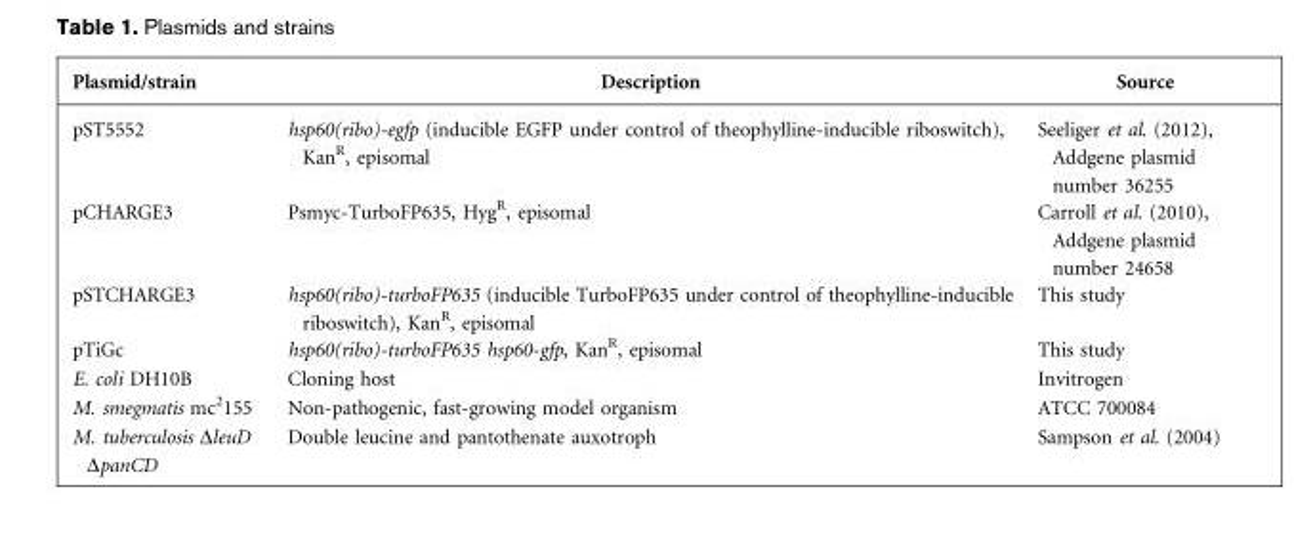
<table><thead><tr><td>Plasmid/strain</td><td>Description</td><td>Source</td></tr></thead><tbody><tr><td>pST5552</td><td>hsp60(ribo)-egfp (inducible EGFP under control of theophylline-inducible riboswitch), Kan<sup>R</sup>, episomal</td><td>Seeliger et al. (2012), Addgene plasmid number 36255</td></tr><tr><td>pCHARGE3</td><td>Psmyc-TurboFP635, Hyg<sup>R</sup>, episomal</td><td>Carroll et al. (2010), Addgene plasmid number 24658</td></tr><tr><td>pSTCHARGE3</td><td>hsp60(ribo)-turboFP635 (inducible TurboFP635 under control of theophylline-inducible riboswitch), Kan<sup>R</sup>, episomal</td><td>This study</td></tr><tr><td>pTiGc</td><td>hsp60(ribo)-turboFP635 hsp60-gfp, Kan<sup>R</sup>, episomal</td><td>This study</td></tr><tr><td>E. coli DH10B</td><td>Cloning host</td><td>Invitrogen</td></tr><tr><td>M. smegmatis mc<sup>2</sup>155</td><td>Non-pathogenic, fast-growing model organism</td><td>ATCC 700084</td></tr><tr><td>M. tuberculosis ΔleuD ΔpanCD</td><td>Double leucine and pantothenate auxotroph</td><td>Sampson et al. (2004)</td></tr></tbody></table>